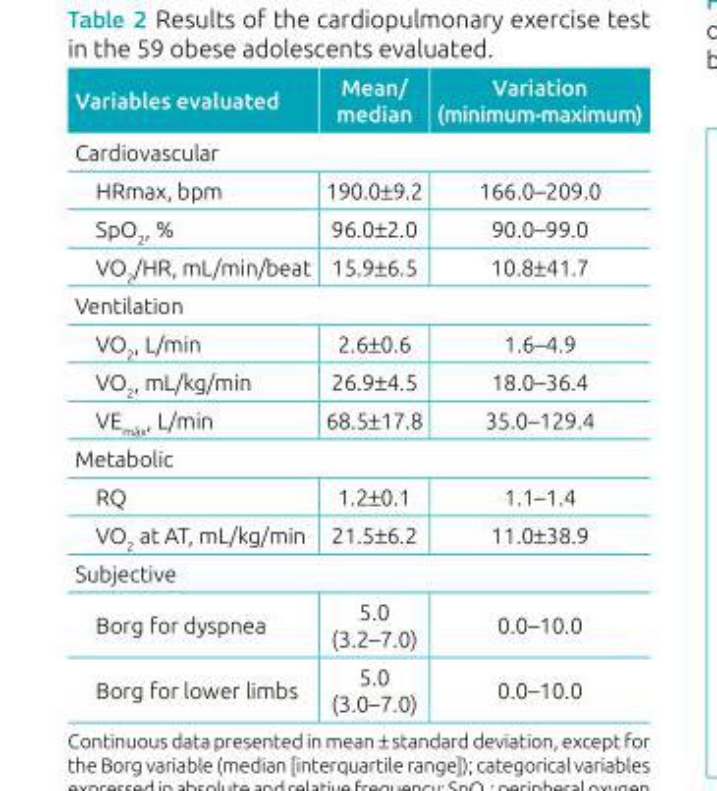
<table><thead><tr><td>Variables evaluated</td><td>Mean/ median</td><td>Variation (minimum‑maximum)</td></tr></thead><tbody><tr><td colspan="3">Cardiovascular</td></tr><tr><td>HRmax, bpm</td><td>190.0±9.2</td><td>166.0–209.0</td></tr><tr><td>SpO<sub>2</sub>, %</td><td>96.0±2.0</td><td>90.0–99.0</td></tr><tr><td>VO<sub>2</sub>/HR, mL/min/beat</td><td>15.9±6.5</td><td>10.8±41.7</td></tr><tr><td colspan="3">Ventilation</td></tr><tr><td>VO<sub>2</sub>, L/min</td><td>2.6±0.6</td><td>1.6–4.9</td></tr><tr><td>VO<sub>2</sub>, mL/kg/min</td><td>26.9±4.5</td><td>18.0–36.4</td></tr><tr><td>VE<sub>máx</sub>, L/min</td><td>68.5±17.8</td><td>35.0–129.4</td></tr><tr><td colspan="3">Metabolic</td></tr><tr><td>RQ</td><td>1.2±0.1</td><td>1.1–1.4</td></tr><tr><td>VO<sub>2</sub> at AT, mL/kg/min</td><td>21.5±6.2</td><td>11.0±38.9</td></tr><tr><td colspan="3">Subjective</td></tr><tr><td>Borg for dyspnea</td><td>5.0 (3.2–7.0)</td><td>0.0–10.0</td></tr><tr><td>Borg for lower limbs</td><td>5.0 (3.0–7.0)</td><td>0.0–10.0</td></tr></tbody></table>